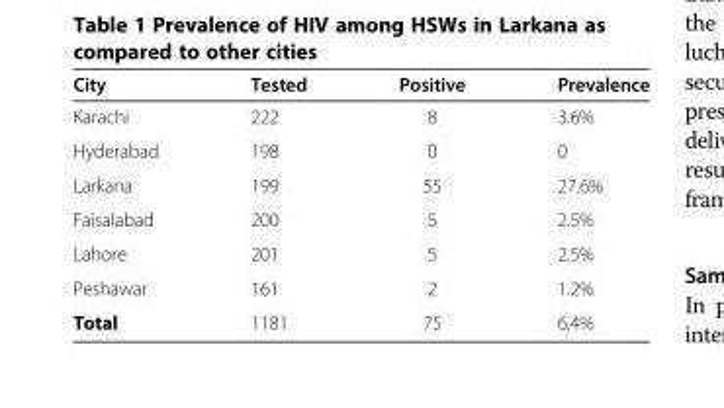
<table><thead><tr><td>City</td><td>Tested</td><td>Positive</td><td>Prevalence</td></tr></thead><tbody><tr><td>Karachi</td><td>222</td><td>8</td><td>3.6%</td></tr><tr><td>Hyderabad</td><td>198</td><td>0</td><td>0</td></tr><tr><td>Larkana</td><td>199</td><td>55</td><td>27.6%</td></tr><tr><td>Faisalabad</td><td>200</td><td>5</td><td>2.5%</td></tr><tr><td>Lahore</td><td>201</td><td>5</td><td>2.5%</td></tr><tr><td>Peshawar</td><td>161</td><td>2</td><td>1.2%</td></tr><tr><td>Total</td><td>1181</td><td>75</td><td>6.4%</td></tr></tbody></table>